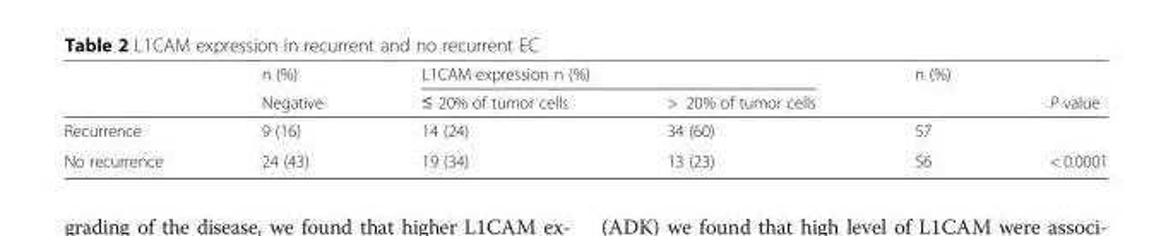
<table><thead><tr><td rowspan="2"></td><td rowspan="2">n (%) Negative</td><td colspan="2">L1CAM expression n (%)</td><td rowspan="2">n (%)</td><td rowspan="2">P value</td></tr><tr><td>≤ 20% of tumor cells</td><td>&gt; 20% of tumor cells</td></tr></thead><tbody><tr><td>Recurrence</td><td>9 (16)</td><td>14 (24)</td><td>34 (60)</td><td>57</td><td></td></tr><tr><td>No recurrence</td><td>24 (43)</td><td>19 (34)</td><td>13 (23)</td><td>56</td><td>&lt; 0.0001</td></tr></tbody></table>